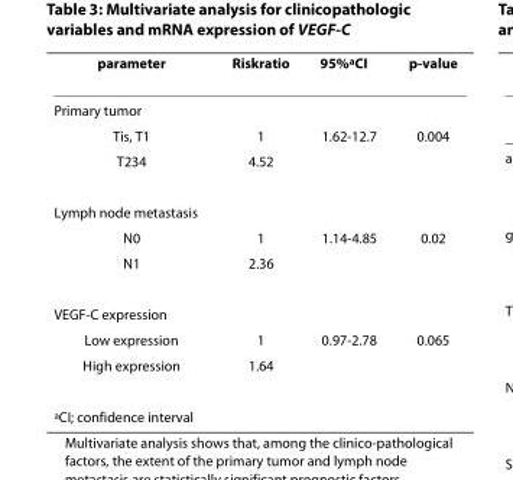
<table><thead><tr><td>parameter</td><td>Riskratio</td><td>95%<sup>a</sup>CI</td><td>p-value</td></tr></thead><tbody><tr><td colspan="4">Primary tumor</td></tr><tr><td>Tis, T1</td><td>1</td><td>1.62-12.7</td><td>0.004</td></tr><tr><td>T234</td><td>4.52</td><td></td><td></td></tr><tr><td colspan="4">Lymph node metastasis</td></tr><tr><td>N0</td><td>1</td><td>1.14-4.85</td><td>0.02</td></tr><tr><td>N1</td><td>2.36</td><td></td><td></td></tr><tr><td colspan="4">VEGF-C expression</td></tr><tr><td>Low expression</td><td>1</td><td>0.97-2.78</td><td>0.065</td></tr><tr><td>High expression</td><td>1.64</td><td></td><td></td></tr><tr><td><sup>a</sup>CI; confidence interval</td><td></td><td></td><td></td></tr></tbody></table>